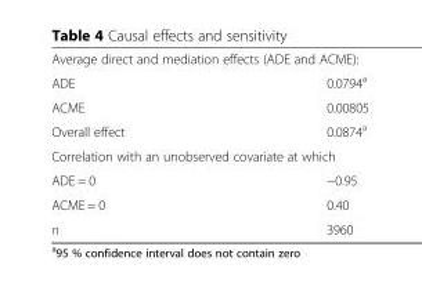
<table><tbody><tr><td colspan="2">Average direct and mediation effects (ADE and ACME):</td></tr><tr><td>ADE</td><td>0.0794<sup>a</sup></td></tr><tr><td>ACME</td><td>0.00805</td></tr><tr><td>Overall effect</td><td>0.0874<sup>a</sup></td></tr><tr><td colspan="2">Correlation with an unobserved covariate at which</td></tr><tr><td>ADE = 0</td><td>−0.95</td></tr><tr><td>ACME = 0</td><td>0.40</td></tr><tr><td>n</td><td>3960</td></tr></tbody></table>